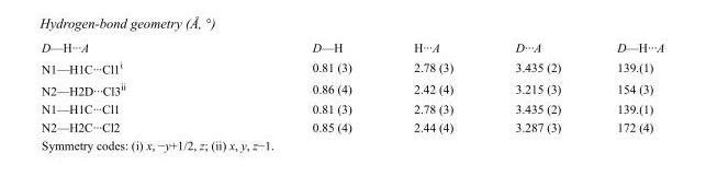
<table><tbody><tr><td>D—H···A</td><td>D—H</td><td>H···A</td><td>D···A</td><td>D—H···A</td></tr><tr><td>N1—H1C···Cl1<sup>i</sup></td><td>0.81 (3)</td><td>2.78 (3)</td><td>3.435 (2)</td><td>139.(1)</td></tr><tr><td>N2—H2D···Cl3<sup>ii</sup></td><td>0.86 (4)</td><td>2.42 (4)</td><td>3.215 (3)</td><td>154 (3)</td></tr><tr><td>N1—H1C···Cl1</td><td>0.81 (3)</td><td>2.78 (3)</td><td>3.435 (2)</td><td>139.(1)</td></tr><tr><td>N2—H2C···Cl2</td><td>0.85 (4)</td><td>2.44 (4)</td><td>3.287 (3)</td><td>172 (4)</td></tr></tbody></table>